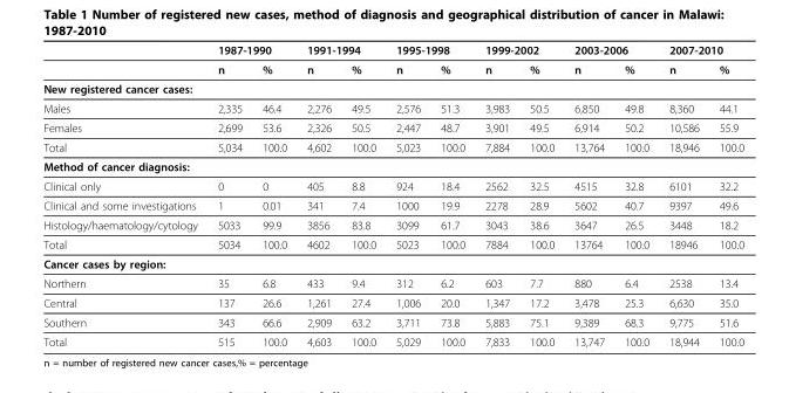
<table><thead><tr><td rowspan="2"></td><td colspan="2">1987-1990</td><td colspan="2">1991-1994</td><td colspan="2">1995-1998</td><td colspan="2">1999-2002</td><td colspan="2">2003-2006</td><td colspan="2">2007-2010</td></tr><tr><td>n</td><td>%</td><td>n</td><td>%</td><td>n</td><td>%</td><td>n</td><td>%</td><td>n</td><td>%</td><td>n</td><td>%</td></tr></thead><tbody><tr><td colspan="13">New registered cancer cases:</td></tr><tr><td>Males</td><td>2,335</td><td>46.4</td><td>2,276</td><td>49.5</td><td>2,576</td><td>51.3</td><td>3,983</td><td>50.5</td><td>6,850</td><td>49.8</td><td>8,360</td><td>44.1</td></tr><tr><td>Females</td><td>2,699</td><td>53.6</td><td>2,326</td><td>50.5</td><td>2,447</td><td>48.7</td><td>3,901</td><td>49.5</td><td>6,914</td><td>50.2</td><td>10,586</td><td>55.9</td></tr><tr><td>Total</td><td>5,034</td><td>100.0</td><td>4,602</td><td>100.0</td><td>5,023</td><td>100.0</td><td>7,884</td><td>100.0</td><td>13,764</td><td>100.0</td><td>18,946</td><td>100.0</td></tr><tr><td colspan="13">Method of cancer diagnosis:</td></tr><tr><td>Clinical only</td><td>0</td><td>0</td><td>405</td><td>8.8</td><td>924</td><td>18.4</td><td>2562</td><td>32.5</td><td>4515</td><td>32.8</td><td>6101</td><td>32.2</td></tr><tr><td>Clinical and some investigations</td><td>1</td><td>0.01</td><td>341</td><td>7.4</td><td>1000</td><td>19.9</td><td>2278</td><td>28.9</td><td>5602</td><td>40.7</td><td>9397</td><td>49.6</td></tr><tr><td>Histology/haematology/cytology</td><td>5033</td><td>99.9</td><td>3856</td><td>83.8</td><td>3099</td><td>61.7</td><td>3043</td><td>38.6</td><td>3647</td><td>26.5</td><td>3448</td><td>18.2</td></tr><tr><td>Total</td><td>5034</td><td>100.0</td><td>4602</td><td>100.0</td><td>5023</td><td>100.0</td><td>7884</td><td>100.0</td><td>13764</td><td>100.0</td><td>18946</td><td>100.0</td></tr><tr><td colspan="13">Cancer cases by region:</td></tr><tr><td>Northern</td><td>35</td><td>6.8</td><td>433</td><td>9.4</td><td>312</td><td>6.2</td><td>603</td><td>7.7</td><td>880</td><td>6.4</td><td>2538</td><td>13.4</td></tr><tr><td>Central</td><td>137</td><td>26.6</td><td>1,261</td><td>27.4</td><td>1,006</td><td>20.0</td><td>1,347</td><td>17.2</td><td>3,478</td><td>25.3</td><td>6,630</td><td>35.0</td></tr><tr><td>Southern</td><td>343</td><td>66.6</td><td>2,909</td><td>63.2</td><td>3,711</td><td>73.8</td><td>5,883</td><td>75.1</td><td>9,389</td><td>68.3</td><td>9,775</td><td>51.6</td></tr><tr><td>Total</td><td>515</td><td>100.0</td><td>4,603</td><td>100.0</td><td>5,029</td><td>100.0</td><td>7,833</td><td>100.0</td><td>13,747</td><td>100.0</td><td>18,944</td><td>100.0</td></tr></tbody></table>